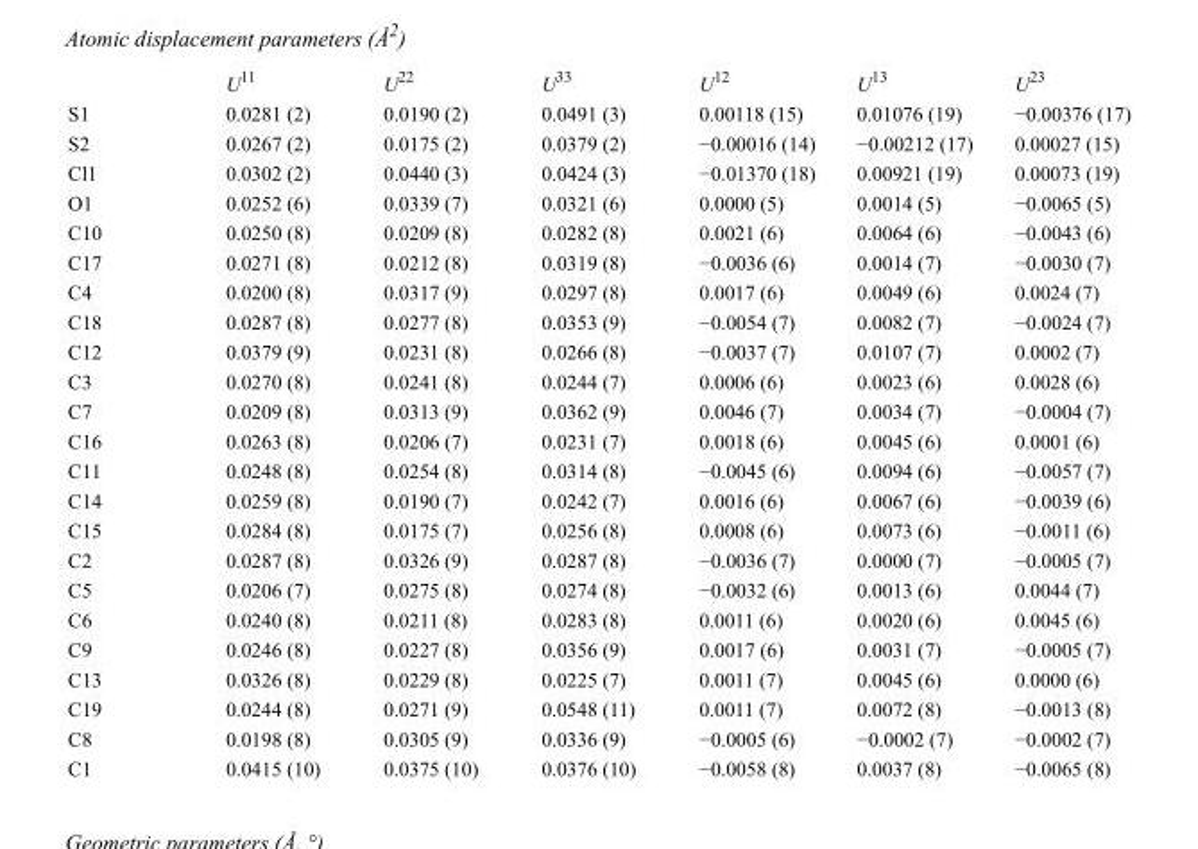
<table><thead><tr><td></td><td>U<sup>11</sup></td><td>U<sup>22</sup></td><td>U<sup>33</sup></td><td>U<sup>12</sup></td><td>U<sup>13</sup></td><td>U<sup>23</sup></td></tr></thead><tbody><tr><td>S1</td><td>0.0281 (2)</td><td>0.0190 (2)</td><td>0.0491 (3)</td><td>0.00118 (15)</td><td>0.01076 (19)</td><td>−0.00376 (17)</td></tr><tr><td>S2</td><td>0.0267 (2)</td><td>0.0175 (2)</td><td>0.0379 (2)</td><td>−0.00016 (14)</td><td>−0.00212 (17)</td><td>0.00027 (15)</td></tr><tr><td>Cl1</td><td>0.0302 (2)</td><td>0.0440 (3)</td><td>0.0424 (3)</td><td>−0.01370 (18)</td><td>0.00921 (19)</td><td>0.00073 (19)</td></tr><tr><td>O1</td><td>0.0252 (6)</td><td>0.0339 (7)</td><td>0.0321 (6)</td><td>0.0000 (5)</td><td>0.0014 (5)</td><td>−0.0065 (5)</td></tr><tr><td>C10</td><td>0.0250 (8)</td><td>0.0209 (8)</td><td>0.0282 (8)</td><td>0.0021 (6)</td><td>0.0064 (6)</td><td>−0.0043 (6)</td></tr><tr><td>C17</td><td>0.0271 (8)</td><td>0.0212 (8)</td><td>0.0319 (8)</td><td>−0.0036 (6)</td><td>0.0014 (7)</td><td>−0.0030 (7)</td></tr><tr><td>C4</td><td>0.0200 (8)</td><td>0.0317 (9)</td><td>0.0297 (8)</td><td>0.0017 (6)</td><td>0.0049 (6)</td><td>0.0024 (7)</td></tr><tr><td>C18</td><td>0.0287 (8)</td><td>0.0277 (8)</td><td>0.0353 (9)</td><td>−0.0054 (7)</td><td>0.0082 (7)</td><td>−0.0024 (7)</td></tr><tr><td>C12</td><td>0.0379 (9)</td><td>0.0231 (8)</td><td>0.0266 (8)</td><td>−0.0037 (7)</td><td>0.0107 (7)</td><td>0.0002 (7)</td></tr><tr><td>C3</td><td>0.0270 (8)</td><td>0.0241 (8)</td><td>0.0244 (7)</td><td>0.0006 (6)</td><td>0.0023 (6)</td><td>0.0028 (6)</td></tr><tr><td>C7</td><td>0.0209 (8)</td><td>0.0313 (9)</td><td>0.0362 (9)</td><td>0.0046 (7)</td><td>0.0034 (7)</td><td>−0.0004 (7)</td></tr><tr><td>C16</td><td>0.0263 (8)</td><td>0.0206 (7)</td><td>0.0231 (7)</td><td>0.0018 (6)</td><td>0.0045 (6)</td><td>0.0001 (6)</td></tr><tr><td>C11</td><td>0.0248 (8)</td><td>0.0254 (8)</td><td>0.0314 (8)</td><td>−0.0045 (6)</td><td>0.0094 (6)</td><td>−0.0057 (7)</td></tr><tr><td>C14</td><td>0.0259 (8)</td><td>0.0190 (7)</td><td>0.0242 (7)</td><td>0.0016 (6)</td><td>0.0067 (6)</td><td>−0.0039 (6)</td></tr><tr><td>C15</td><td>0.0284 (8)</td><td>0.0175 (7)</td><td>0.0256 (8)</td><td>0.0008 (6)</td><td>0.0073 (6)</td><td>−0.0011 (6)</td></tr><tr><td>C2</td><td>0.0287 (8)</td><td>0.0326 (9)</td><td>0.0287 (8)</td><td>−0.0036 (7)</td><td>0.0000 (7)</td><td>−0.0005 (7)</td></tr><tr><td>C5</td><td>0.0206 (7)</td><td>0.0275 (8)</td><td>0.0274 (8)</td><td>−0.0032 (6)</td><td>0.0013 (6)</td><td>0.0044 (7)</td></tr><tr><td>C6</td><td>0.0240 (8)</td><td>0.0211 (8)</td><td>0.0283 (8)</td><td>0.0011 (6)</td><td>0.0020 (6)</td><td>0.0045 (6)</td></tr><tr><td>C9</td><td>0.0246 (8)</td><td>0.0227 (8)</td><td>0.0356 (9)</td><td>0.0017 (6)</td><td>0.0031 (7)</td><td>−0.0005 (7)</td></tr><tr><td>C13</td><td>0.0326 (8)</td><td>0.0229 (8)</td><td>0.0225 (7)</td><td>0.0011 (7)</td><td>0.0045 (6)</td><td>0.0000 (6)</td></tr><tr><td>C19</td><td>0.0244 (8)</td><td>0.0271 (9)</td><td>0.0548 (11)</td><td>0.0011 (7)</td><td>0.0072 (8)</td><td>−0.0013 (8)</td></tr><tr><td>C8</td><td>0.0198 (8)</td><td>0.0305 (9)</td><td>0.0336 (9)</td><td>−0.0005 (6)</td><td>−0.0002 (7)</td><td>−0.0002 (7)</td></tr><tr><td>C1</td><td>0.0415 (10)</td><td>0.0375 (10)</td><td>0.0376 (10)</td><td>−0.0058 (8)</td><td>0.0037 (8)</td><td>−0.0065 (8)</td></tr></tbody></table>